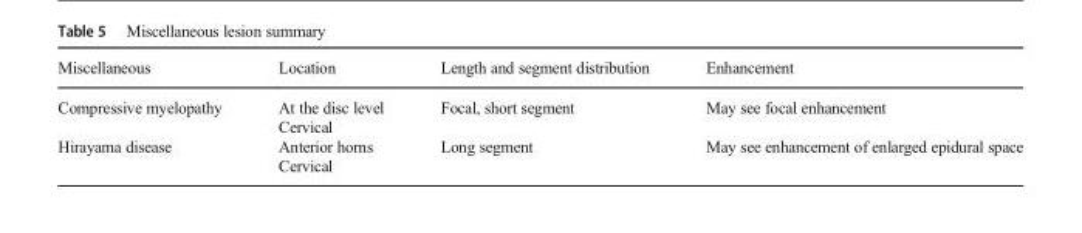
<table><thead><tr><td>Miscellaneous</td><td>Location</td><td>Length and segment distribution</td><td>Enhancement</td></tr></thead><tbody><tr><td>Compressive myelopathy</td><td>At the disc level Cervical</td><td>Focal, short segment</td><td>May see focal enhancement</td></tr><tr><td>Hirayama disease</td><td>Anterior horns Cervical</td><td>Long segment</td><td>May see enhancement of enlarged epidural space</td></tr></tbody></table>